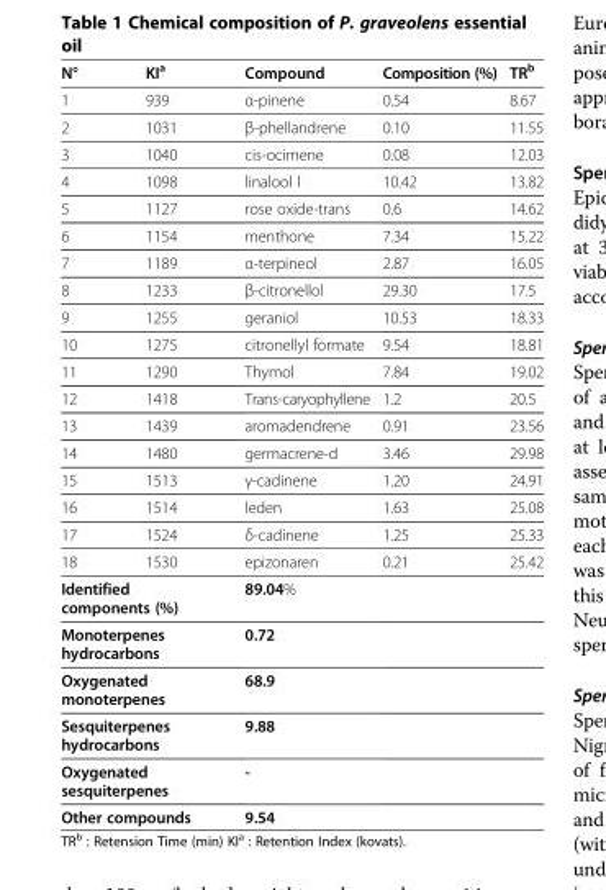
<table><thead><tr><td>N°</td><td>KI<sup>a</sup></td><td>Compound</td><td>Composition (%)</td><td>TR<sup>b</sup></td></tr></thead><tbody><tr><td>1</td><td>939</td><td>α-pinene</td><td>0.54</td><td>8.67</td></tr><tr><td>2</td><td>1031</td><td>β-phellandrene</td><td>0.10</td><td>11.55</td></tr><tr><td>3</td><td>1040</td><td>cis-ocimene</td><td>0.08</td><td>12.03</td></tr><tr><td>4</td><td>1098</td><td>linalool l</td><td>10.42</td><td>13.82</td></tr><tr><td>5</td><td>1127</td><td>rose oxide-trans</td><td>0.6</td><td>14.62</td></tr><tr><td>6</td><td>1154</td><td>menthone</td><td>7.34</td><td>15.22</td></tr><tr><td>7</td><td>1189</td><td>α-terpineol</td><td>2.87</td><td>16.05</td></tr><tr><td>8</td><td>1233</td><td>β-citronellol</td><td>29.30</td><td>17.5</td></tr><tr><td>9</td><td>1255</td><td>geraniol</td><td>10.53</td><td>18.33</td></tr><tr><td>10</td><td>1275</td><td>citronellyl formate</td><td>9.54</td><td>18.81</td></tr><tr><td>11</td><td>1290</td><td>Thymol</td><td>7.84</td><td>19.02</td></tr><tr><td>12</td><td>1418</td><td>Trans-caryophyllene</td><td>1.2</td><td>20.5</td></tr><tr><td>13</td><td>1439</td><td>aromadendrene</td><td>0.91</td><td>23.56</td></tr><tr><td>14</td><td>1480</td><td>germacrene-d</td><td>3.46</td><td>29.98</td></tr><tr><td>15</td><td>1513</td><td>γ-cadinene</td><td>1.20</td><td>24.91</td></tr><tr><td>16</td><td>1514</td><td>leden</td><td>1.63</td><td>25.08</td></tr><tr><td>17</td><td>1524</td><td>δ-cadinene</td><td>1.25</td><td>25.33</td></tr><tr><td>18</td><td>1530</td><td>epizonaren</td><td>0.21</td><td>25.42</td></tr><tr><td colspan="2">Identified components (%)</td><td>89.04%</td><td colspan="2"></td></tr><tr><td colspan="2">Monoterpenes hydrocarbons</td><td>0.72</td><td colspan="2"></td></tr><tr><td colspan="2">Oxygenated monoterpenes</td><td>68.9</td><td colspan="2"></td></tr><tr><td colspan="2">Sesquiterpenes hydrocarbons</td><td>9.88</td><td colspan="2"></td></tr><tr><td colspan="2">Oxygenated sesquiterpenes</td><td>-</td><td colspan="2"></td></tr><tr><td colspan="2">Other compounds</td><td>9.54</td><td colspan="2"></td></tr></tbody></table>